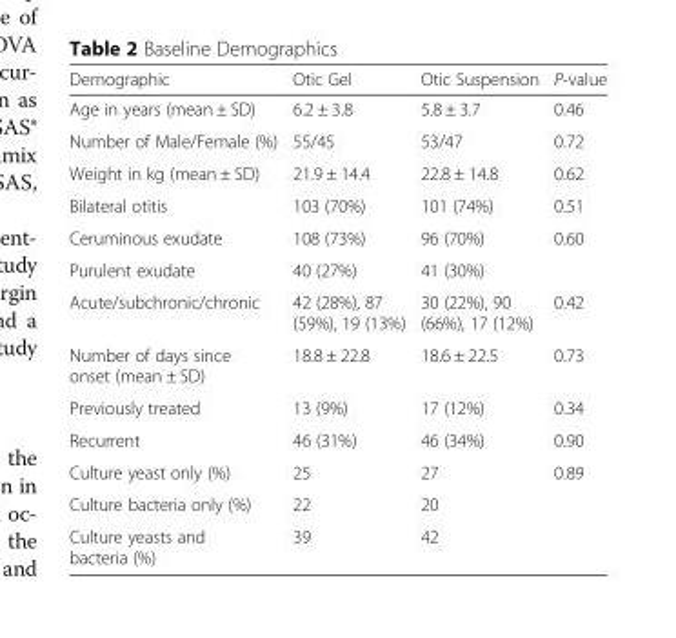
<table><thead><tr><td>Demographic</td><td>Otic Gel</td><td>Otic Suspension</td><td>P-value</td></tr></thead><tbody><tr><td>Age in years (mean ± SD)</td><td>6.2 ± 3.8</td><td>5.8 ± 3.7</td><td>0.46</td></tr><tr><td>Number of Male/Female (%)</td><td>55/45</td><td>53/47</td><td>0.72</td></tr><tr><td>Weight in kg (mean ± SD)</td><td>21.9 ± 14.4</td><td>22.8 ± 14.8</td><td>0.62</td></tr><tr><td>Bilateral otitis</td><td>103 (70%)</td><td>101 (74%)</td><td>0.51</td></tr><tr><td>Ceruminous exudate</td><td>108 (73%)</td><td>96 (70%)</td><td rowspan="2">0.60</td></tr><tr><td>Purulent exudate</td><td>40 (27%)</td><td>41 (30%)</td></tr><tr><td>Acute/subchronic/chronic</td><td>42 (28%), 87 (59%), 19 (13%)</td><td>30 (22%), 90 (66%), 17 (12%)</td><td>0.42</td></tr><tr><td>Number of days since onset (mean ± SD)</td><td>18.8 ± 22.8</td><td>18.6 ± 22.5</td><td>0.73</td></tr><tr><td>Previously treated</td><td>13 (9%)</td><td>17 (12%)</td><td>0.34</td></tr><tr><td>Recurrent</td><td>46 (31%)</td><td>46 (34%)</td><td>0.90</td></tr><tr><td>Culture yeast only (%)</td><td>25</td><td>27</td><td rowspan="3">0.89</td></tr><tr><td>Culture bacteria only (%)</td><td>22</td><td>20</td></tr><tr><td>Culture yeasts and bacteria (%)</td><td>39</td><td>42</td></tr></tbody></table>